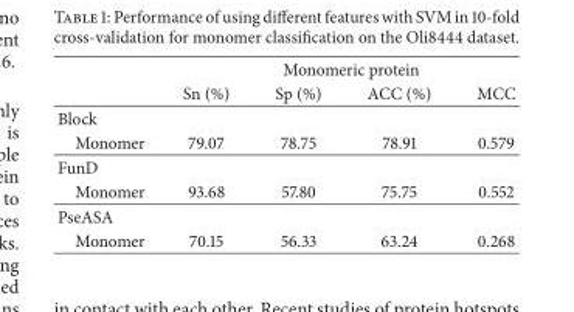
<table><thead><tr><td rowspan="2"></td><td colspan="4">Monomeric protein</td></tr><tr><td>Sn (%)</td><td>Sp (%)</td><td>ACC (%)</td><td>MCC</td></tr></thead><tbody><tr><td colspan="5">Block</td></tr><tr><td>Monomer</td><td>79.07</td><td>78.75</td><td>78.91</td><td>0.579</td></tr><tr><td colspan="5">FunD</td></tr><tr><td>Monomer</td><td>93.68</td><td>57.80</td><td>75.75</td><td>0.552</td></tr><tr><td colspan="5">PseASA</td></tr><tr><td>Monomer</td><td>70.15</td><td>56.33</td><td>63.24</td><td>0.268</td></tr></tbody></table>